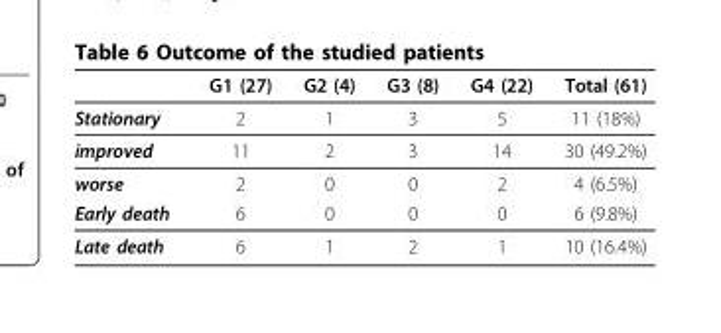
<table><thead><tr><td></td><td>G1 (27)</td><td>G2 (4)</td><td>G3 (8)</td><td>G4 (22)</td><td>Total (61)</td></tr></thead><tbody><tr><td>Stationary</td><td>2</td><td>1</td><td>3</td><td>5</td><td>11 (18%)</td></tr><tr><td>improved</td><td>11</td><td>2</td><td>3</td><td>14</td><td>30 (49.2%)</td></tr><tr><td>worse</td><td>2</td><td>0</td><td>0</td><td>2</td><td>4 (6.5%)</td></tr><tr><td>Early death</td><td>6</td><td>0</td><td>0</td><td>0</td><td>6 (9.8%)</td></tr><tr><td>Late death</td><td>6</td><td>1</td><td>2</td><td>1</td><td>10 (16.4%)</td></tr></tbody></table>